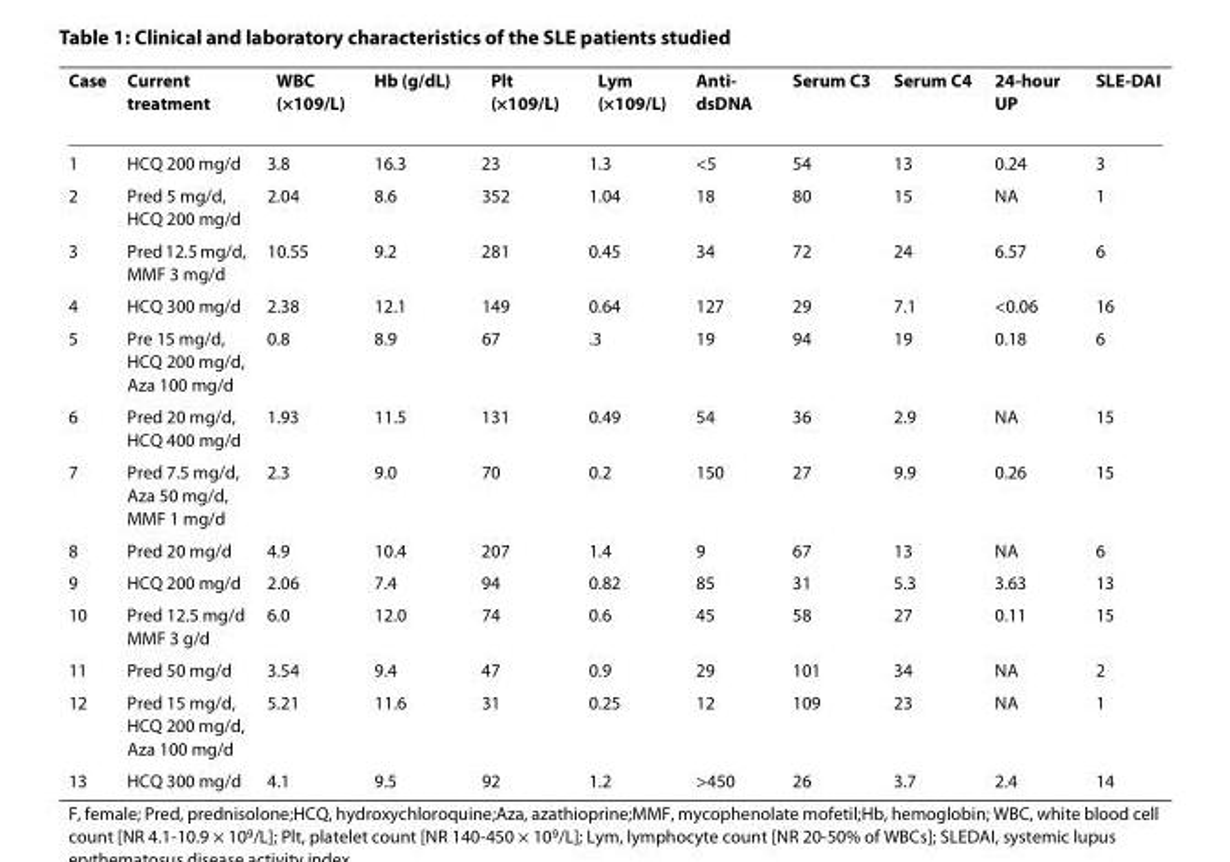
<table><thead><tr><td>Case</td><td>Current treatment</td><td>WBC (×10<sup>9</sup>/L)</td><td>Hb (g/dL)</td><td>Plt (×10<sup>9</sup>/L)</td><td>Lym (×10<sup>9</sup>/L)</td><td>Anti- dsDNA</td><td>Serum C3</td><td>Serum C4</td><td>24-hour UP</td><td>SLE-DAI</td></tr></thead><tbody><tr><td>1</td><td>HCQ 200 mg/d</td><td>3.8</td><td>16.3</td><td>23</td><td>1.3</td><td>&lt;5</td><td>54</td><td>13</td><td>0.24</td><td>3</td></tr><tr><td>2</td><td>Pred 5 mg/d, HCQ 200 mg/d</td><td>2.04</td><td>8.6</td><td>352</td><td>1.04</td><td>18</td><td>80</td><td>15</td><td>NA</td><td>1</td></tr><tr><td>3</td><td>Pred 12.5 mg/d, MMF 3 mg/d</td><td>10.55</td><td>9.2</td><td>281</td><td>0.45</td><td>34</td><td>72</td><td>24</td><td>6.57</td><td>6</td></tr><tr><td>4</td><td>HCQ 300 mg/d</td><td>2.38</td><td>12.1</td><td>149</td><td>0.64</td><td>127</td><td>29</td><td>7.1</td><td>&lt;0.06</td><td>16</td></tr><tr><td>5</td><td>Pre 15 mg/d, HCQ 200 mg/d, Aza 100 mg/d</td><td>0.8</td><td>8.9</td><td>67</td><td>.3</td><td>19</td><td>94</td><td>19</td><td>0.18</td><td>6</td></tr><tr><td>6</td><td>Pred 20 mg/d, HCQ 400 mg/d</td><td>1.93</td><td>11.5</td><td>131</td><td>0.49</td><td>54</td><td>36</td><td>2.9</td><td>NA</td><td>15</td></tr><tr><td>7</td><td>Pred 7.5 mg/d, Aza 50 mg/d, MMF 1 mg/d</td><td>2.3</td><td>9.0</td><td>70</td><td>0.2</td><td>150</td><td>27</td><td>9.9</td><td>0.26</td><td>15</td></tr><tr><td>8</td><td>Pred 20 mg/d</td><td>4.9</td><td>10.4</td><td>207</td><td>1.4</td><td>9</td><td>67</td><td>13</td><td>NA</td><td>6</td></tr><tr><td>9</td><td>HCQ 200 mg/d</td><td>2.06</td><td>7.4</td><td>94</td><td>0.82</td><td>85</td><td>31</td><td>5.3</td><td>3.63</td><td>13</td></tr><tr><td>10</td><td>Pred 12.5 mg/d MMF 3 g/d</td><td>6.0</td><td>12.0</td><td>74</td><td>0.6</td><td>45</td><td>58</td><td>27</td><td>0.11</td><td>15</td></tr><tr><td>11</td><td>Pred 50 mg/d</td><td>3.54</td><td>9.4</td><td>47</td><td>0.9</td><td>29</td><td>101</td><td>34</td><td>NA</td><td>2</td></tr><tr><td>12</td><td>Pred 15 mg/d, HCQ 200 mg/d, Aza 100 mg/d</td><td>5.21</td><td>11.6</td><td>31</td><td>0.25</td><td>12</td><td>109</td><td>23</td><td>NA</td><td>1</td></tr><tr><td>13</td><td>HCQ 300 mg/d</td><td>4.1</td><td>9.5</td><td>92</td><td>1.2</td><td>&gt;450</td><td>26</td><td>3.7</td><td>2.4</td><td>14</td></tr></tbody></table>